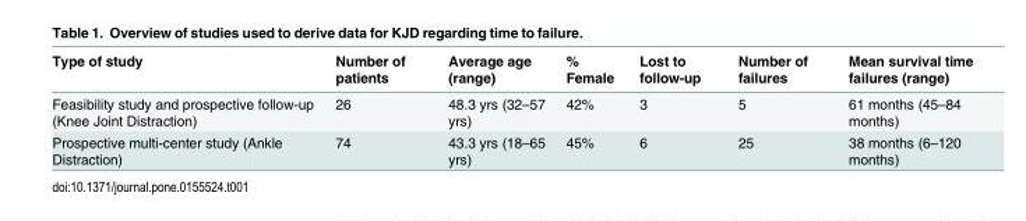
<table><thead><tr><td>Type of study</td><td>Number of patients</td><td>Average age (range)</td><td>% Female</td><td>Lost to follow-up</td><td>Number of failures</td><td>Mean survival time failures (range)</td></tr></thead><tbody><tr><td>Feasibility study and prospective follow-up (Knee Joint Distraction)</td><td>26</td><td>48.3 yrs (32–57 yrs)</td><td>42%</td><td>3</td><td>5</td><td>61 months (45–84 months)</td></tr><tr><td>Prospective multi-center study (Ankle Distraction)</td><td>74</td><td>43.3 yrs (18–65 yrs)</td><td>45%</td><td>6</td><td>25</td><td>38 months (6–120 months)</td></tr></tbody></table>